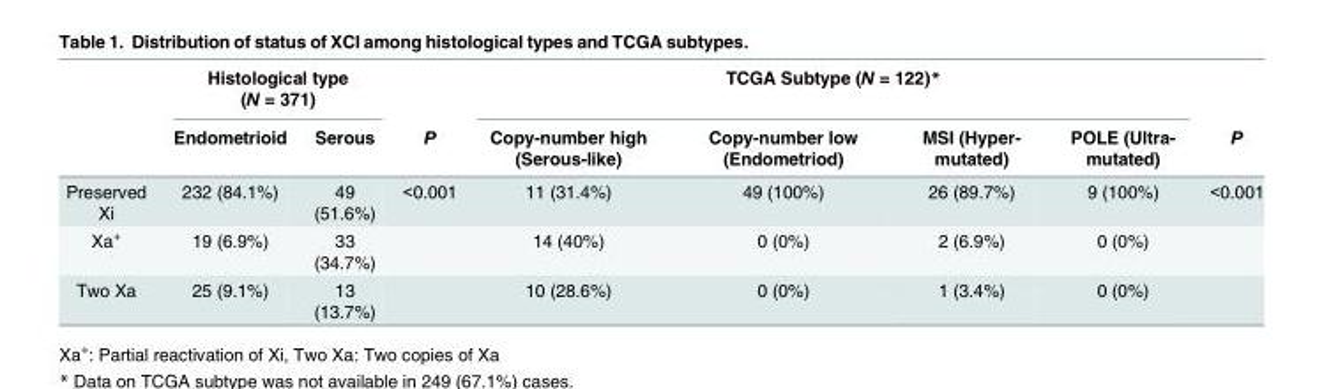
<table><thead><tr><td rowspan="2"></td><td colspan="2">Histological type (N = 371)</td><td rowspan="2">P</td><td colspan="4">TCGA Subtype (N = 122)*</td><td rowspan="2">P</td></tr><tr><td>Endometrioid</td><td>Serous</td><td>Copy-number high (Serous-like)</td><td>Copy-number low (Endometriod)</td><td>MSI (Hyper- mutated)</td><td>POLE (Ultra- mutated)</td></tr></thead><tbody><tr><td>Preserved Xi</td><td>232 (84.1%)</td><td>49 (51.6%)</td><td>&lt;0.001</td><td>11 (31.4%)</td><td>49 (100%)</td><td>26 (89.7%)</td><td>9 (100%)</td><td>&lt;0.001</td></tr><tr><td>Xa<sup>+</sup></td><td>19 (6.9%)</td><td>33 (34.7%)</td><td></td><td>14 (40%)</td><td>0 (0%)</td><td>2 (6.9%)</td><td>0 (0%)</td><td></td></tr><tr><td>Two Xa</td><td>25 (9.1%)</td><td>13 (13.7%)</td><td></td><td>10 (28.6%)</td><td>0 (0%)</td><td>1 (3.4%)</td><td>0 (0%)</td><td></td></tr></tbody></table>